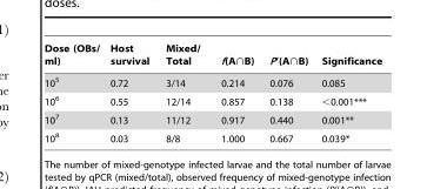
<table><thead><tr><td>Dose (OBs/ ml)</td><td>Host survival</td><td>Mixed/ Total</td><td>f(A&gt;B)</td><td>P’(A&gt;B)</td><td>Significance</td></tr></thead><tbody><tr><td>10<sup>5</sup></td><td>0.72</td><td>3/14</td><td>0.214</td><td>0.076</td><td>0.085</td></tr><tr><td>10<sup>6</sup></td><td>0.55</td><td>12/14</td><td>0.857</td><td>0.138</td><td>&lt;0.001***</td></tr><tr><td>10<sup>7</sup></td><td>0.13</td><td>11/12</td><td>0.917</td><td>0.440</td><td>0.001**</td></tr><tr><td>10<sup>8</sup></td><td>0.03</td><td>8/8</td><td>1.000</td><td>0.667</td><td>0.039*</td></tr></tbody></table>